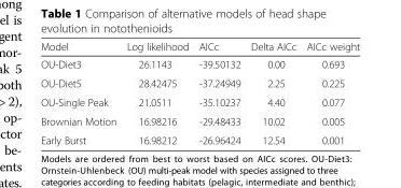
<table><thead><tr><td>Model</td><td>Log likelihood</td><td>AICc</td><td>Delta AICc</td><td>AICc weight</td></tr></thead><tbody><tr><td>OU-Diet3</td><td>26.1143</td><td>-39.50132</td><td>0.00</td><td>0.693</td></tr><tr><td>OU-Diet5</td><td>28.42475</td><td>-37.24949</td><td>2.25</td><td>0.225</td></tr><tr><td>OU-Single Peak</td><td>21.0511</td><td>-35.10237</td><td>4.40</td><td>0.077</td></tr><tr><td>Brownian Motion</td><td>16.98216</td><td>-29.48433</td><td>10.02</td><td>0.005</td></tr><tr><td>Early Burst</td><td>16.98212</td><td>-26.96424</td><td>12.54</td><td>0.001</td></tr></tbody></table>